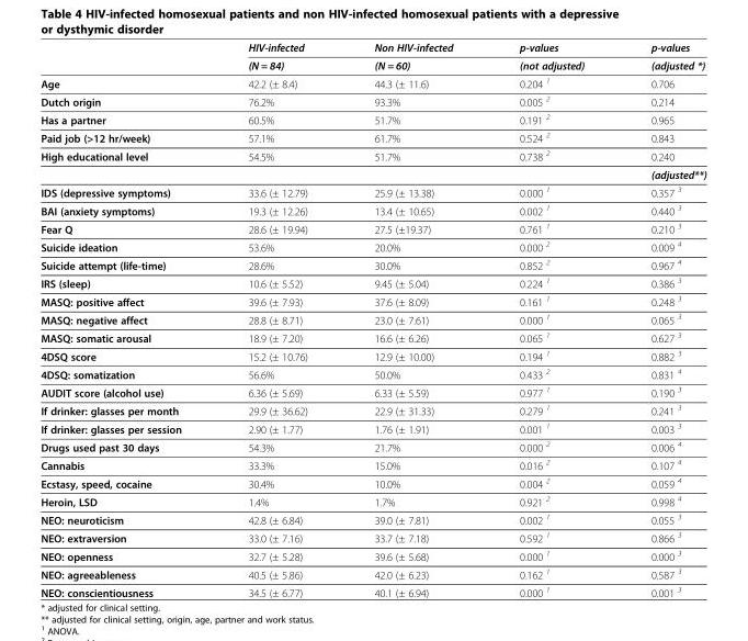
<table><thead><tr><td rowspan="2"></td><td rowspan="2">HIV-infected (N = 84)</td><td rowspan="2">Non HIV-infected (N = 60)</td><td rowspan="2">p-values (not adjusted)</td><td rowspan="2">p-values (adjusted *)</td></tr><tr></tr></thead><tbody><tr><td>Age</td><td>42.2 (± 8.4)</td><td>44.3 (± 11.6)</td><td>0.204 <sup>1</sup></td><td>0.706</td></tr><tr><td>Dutch origin</td><td>76.2%</td><td>93.3%</td><td>0.005 <sup>2</sup></td><td>0.214</td></tr><tr><td>Has a partner</td><td>60.5%</td><td>51.7%</td><td>0.191 <sup>2</sup></td><td>0.965</td></tr><tr><td>Paid job (&gt;12 hr/week)</td><td>57.1%</td><td>61.7%</td><td>0.524 <sup>2</sup></td><td>0.843</td></tr><tr><td rowspan="2">High educational level</td><td>54.5%</td><td>51.7%</td><td>0.738 <sup>2</sup></td><td>0.240</td></tr><tr><td></td><td></td><td></td><td>(adjusted**)</td></tr><tr><td>IDS (depressive symptoms)</td><td>33.6 (± 12.79)</td><td>25.9 (± 13.38)</td><td>0.000 <sup>1</sup></td><td>0.357 <sup>3</sup></td></tr><tr><td>BAI (anxiety symptoms)</td><td>19.3 (± 12.26)</td><td>13.4 (± 10.65)</td><td>0.002 <sup>1</sup></td><td>0.440 <sup>3</sup></td></tr><tr><td>Fear Q</td><td>28.6 (± 19.94)</td><td>27.5 (±19.37)</td><td>0.761 <sup>1</sup></td><td>0.210 <sup>3</sup></td></tr><tr><td>Suicide ideation</td><td>53.6%</td><td>20.0%</td><td>0.000 <sup>2</sup></td><td>0.009 <sup>4</sup></td></tr><tr><td>Suicide attempt (life-time)</td><td>28.6%</td><td>30.0%</td><td>0.852 <sup>2</sup></td><td>0.967 <sup>4</sup></td></tr><tr><td>IRS (sleep)</td><td>10.6 (± 5.52)</td><td>9.45 (± 5.04)</td><td>0.224 <sup>1</sup></td><td>0.386 <sup>3</sup></td></tr><tr><td>MASQ: positive affect</td><td>39.6 (± 7.93)</td><td>37.6 (± 8.09)</td><td>0.161 <sup>1</sup></td><td>0.248 <sup>3</sup></td></tr><tr><td>MASQ: negative affect</td><td>28.8 (± 8.71)</td><td>23.0 (± 7.61)</td><td>0.000 <sup>1</sup></td><td>0.065 <sup>3</sup></td></tr><tr><td>MASQ: somatic arousal</td><td>18.9 (± 7.20)</td><td>16.6 (± 6.26)</td><td>0.065 <sup>1</sup></td><td>0.627 <sup>3</sup></td></tr><tr><td>4DSQ score</td><td>15.2 (± 10.76)</td><td>12.9 (± 10.00)</td><td>0.194 <sup>1</sup></td><td>0.882 <sup>3</sup></td></tr><tr><td>4DSQ: somatization</td><td>56.6%</td><td>50.0%</td><td>0.433 <sup>2</sup></td><td>0.831 <sup>4</sup></td></tr><tr><td>AUDIT score (alcohol use)</td><td>6.36 (± 5.69)</td><td>6.33 (± 5.59)</td><td>0.977 <sup>1</sup></td><td>0.190 <sup>3</sup></td></tr><tr><td>If drinker: glasses per month</td><td>29.9 (± 36.62)</td><td>22.9 (± 31.33)</td><td>0.279 <sup>1</sup></td><td>0.241 <sup>3</sup></td></tr><tr><td>If drinker: glasses per session</td><td>2.90 (± 1.77)</td><td>1.76 (± 1.91)</td><td>0.001 <sup>1</sup></td><td>0.003 <sup>3</sup></td></tr><tr><td>Drugs used past 30 days</td><td>54.3%</td><td>21.7%</td><td>0.000 <sup>2</sup></td><td>0.006 <sup>4</sup></td></tr><tr><td>Cannabis</td><td>33.3%</td><td>15.0%</td><td>0.016 <sup>2</sup></td><td>0.107 <sup>4</sup></td></tr><tr><td>Ecstasy, speed, cocaine</td><td>30.4%</td><td>10.0%</td><td>0.004 <sup>2</sup></td><td>0.059 <sup>4</sup></td></tr><tr><td>Heroin, LSD</td><td>1.4%</td><td>1.7%</td><td>0.921 <sup>2</sup></td><td>0.998 <sup>4</sup></td></tr><tr><td>NEO: neuroticism</td><td>42.8 (± 6.84)</td><td>39.0 (± 7.81)</td><td>0.002 <sup>1</sup></td><td>0.055 <sup>3</sup></td></tr><tr><td>NEO: extraversion</td><td>33.0 (± 7.16)</td><td>33.7 (± 7.18)</td><td>0.592 <sup>1</sup></td><td>0.866 <sup>3</sup></td></tr><tr><td>NEO: openness</td><td>32.7 (± 5.28)</td><td>39.6 (± 5.68)</td><td>0.000 <sup>1</sup></td><td>0.000 <sup>3</sup></td></tr><tr><td>NEO: agreeableness</td><td>40.5 (± 5.86)</td><td>42.0 (± 6.23)</td><td>0.162 <sup>1</sup></td><td>0.587 <sup>3</sup></td></tr><tr><td>NEO: conscientiousness</td><td>34.5 (± 6.77)</td><td>40.1 (± 6.94)</td><td>0.000 <sup>1</sup></td><td>0.001 <sup>3</sup></td></tr></tbody></table>